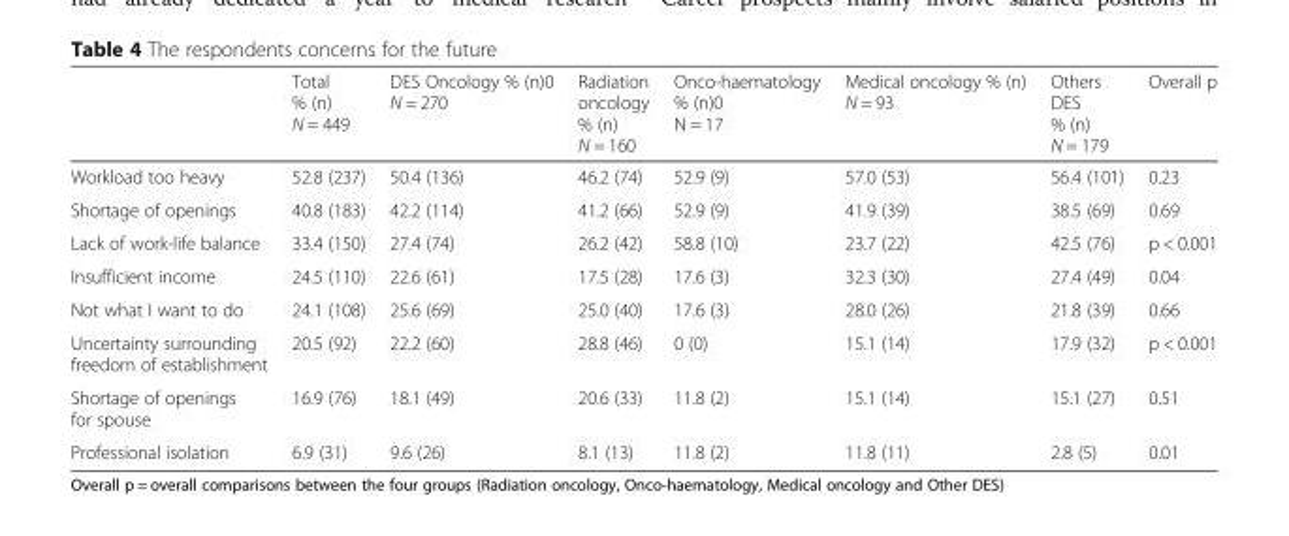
<table><thead><tr><td></td><td>Total % (n) N = 449</td><td>DES Oncology % (n)0 N = 270</td><td>Radiation oncology % (n) N = 160</td><td>Onco-haematology % (n)0 N = 17</td><td>Medical oncology % (n) N = 93</td><td>Others DES % (n) N = 179</td><td>Overall p</td></tr></thead><tbody><tr><td>Workload too heavy</td><td>52.8 (237)</td><td>50.4 (136)</td><td>46.2 (74)</td><td>52.9 (9)</td><td>57.0 (53)</td><td>56.4 (101)</td><td>0.23</td></tr><tr><td>Shortage of openings</td><td>40.8 (183)</td><td>42.2 (114)</td><td>41.2 (66)</td><td>52.9 (9)</td><td>41.9 (39)</td><td>38.5 (69)</td><td>0.69</td></tr><tr><td>Lack of work-life balance</td><td>33.4 (150)</td><td>27.4 (74)</td><td>26.2 (42)</td><td>58.8 (10)</td><td>23.7 (22)</td><td>42.5 (76)</td><td>p &lt; 0.001</td></tr><tr><td>Insufficient income</td><td>24.5 (110)</td><td>22.6 (61)</td><td>17.5 (28)</td><td>17.6 (3)</td><td>32.3 (30)</td><td>27.4 (49)</td><td>0.04</td></tr><tr><td>Not what I want to do</td><td>24.1 (108)</td><td>25.6 (69)</td><td>25.0 (40)</td><td>17.6 (3)</td><td>28.0 (26)</td><td>21.8 (39)</td><td>0.66</td></tr><tr><td>Uncertainty surrounding freedom of establishment</td><td>20.5 (92)</td><td>22.2 (60)</td><td>28.8 (46)</td><td>0 (0)</td><td>15.1 (14)</td><td>17.9 (32)</td><td>p &lt; 0.001</td></tr><tr><td>Shortage of openings for spouse</td><td>16.9 (76)</td><td>18.1 (49)</td><td>20.6 (33)</td><td>11.8 (2)</td><td>15.1 (14)</td><td>15.1 (27)</td><td>0.51</td></tr><tr><td>Professional isolation</td><td>6.9 (31)</td><td>9.6 (26)</td><td>8.1 (13)</td><td>11.8 (2)</td><td>11.8 (11)</td><td>2.8 (5)</td><td>0.01</td></tr></tbody></table>